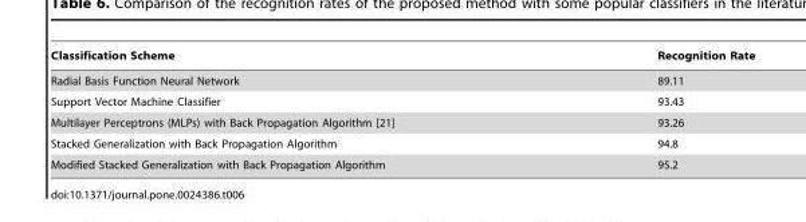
<table><thead><tr><td>Classification Scheme</td><td>Recognition Rate</td></tr></thead><tbody><tr><td>Radial Basis Function Neural Network</td><td>89.11</td></tr><tr><td>Support Vector Machine Classifier</td><td>93.43</td></tr><tr><td>Multilayer Perceptrons (MLPs) with Back Propagation Algorithm [21]</td><td>93.26</td></tr><tr><td>Stacked Generalization with Back Propagation Algorithm</td><td>94.8</td></tr><tr><td>Modified Stacked Generalization with Back Propagation Algorithm</td><td>95.2</td></tr></tbody></table>